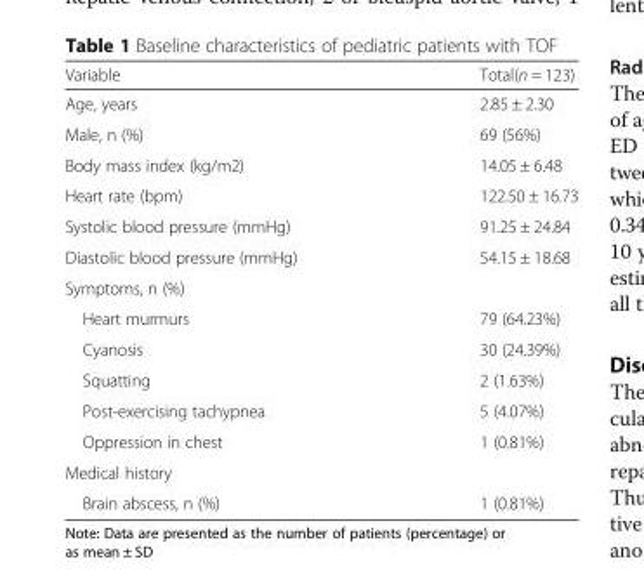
<table><thead><tr><td>Variable</td><td>Total(n = 123)</td></tr></thead><tbody><tr><td>Age, years</td><td>2.85 ± 2.30</td></tr><tr><td>Male, n (%)</td><td>69 (56%)</td></tr><tr><td>Body mass index (kg/m2)</td><td>14.05 ± 6.48</td></tr><tr><td>Heart rate (bpm)</td><td>122.50 ± 16.73</td></tr><tr><td>Systolic blood pressure (mmHg)</td><td>91.25 ± 24.84</td></tr><tr><td>Diastolic blood pressure (mmHg)</td><td>54.15 ± 18.68</td></tr><tr><td colspan="2">Symptoms, n (%)</td></tr><tr><td>Heart murmurs</td><td>79 (64.23%)</td></tr><tr><td>Cyanosis</td><td>30 (24.39%)</td></tr><tr><td>Squatting</td><td>2 (1.63%)</td></tr><tr><td>Post-exercising tachypnea</td><td>5 (4.07%)</td></tr><tr><td>Oppression in chest</td><td>1 (0.81%)</td></tr><tr><td colspan="2">Medical history</td></tr><tr><td>Brain abscess, n (%)</td><td>1 (0.81%)</td></tr></tbody></table>